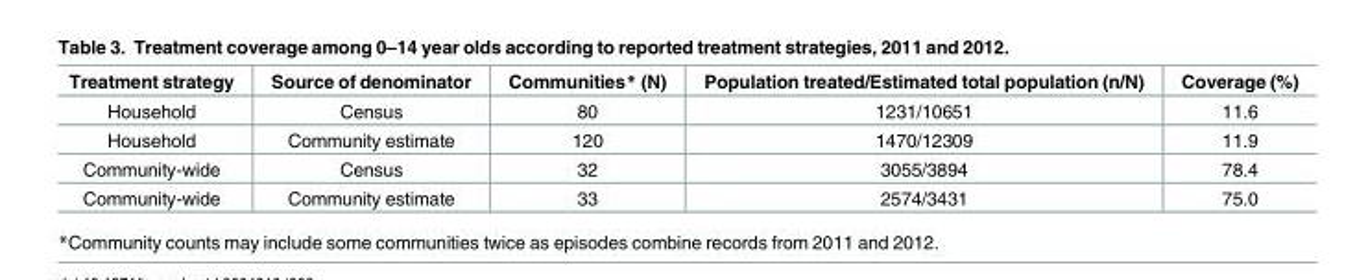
<table><thead><tr><td>Treatment strategy</td><td>Source of denominator</td><td>Communities* (N)</td><td>Population treated/Estimated total population (n/N)</td><td>Coverage (%)</td></tr></thead><tbody><tr><td>Household</td><td>Census</td><td>80</td><td>1231/10651</td><td>11.6</td></tr><tr><td>Household</td><td>Community estimate</td><td>120</td><td>1470/12309</td><td>11.9</td></tr><tr><td>Community-wide</td><td>Census</td><td>32</td><td>3055/3894</td><td>78.4</td></tr><tr><td>Community-wide</td><td>Community estimate</td><td>33</td><td>2574/3431</td><td>75.0</td></tr></tbody></table>